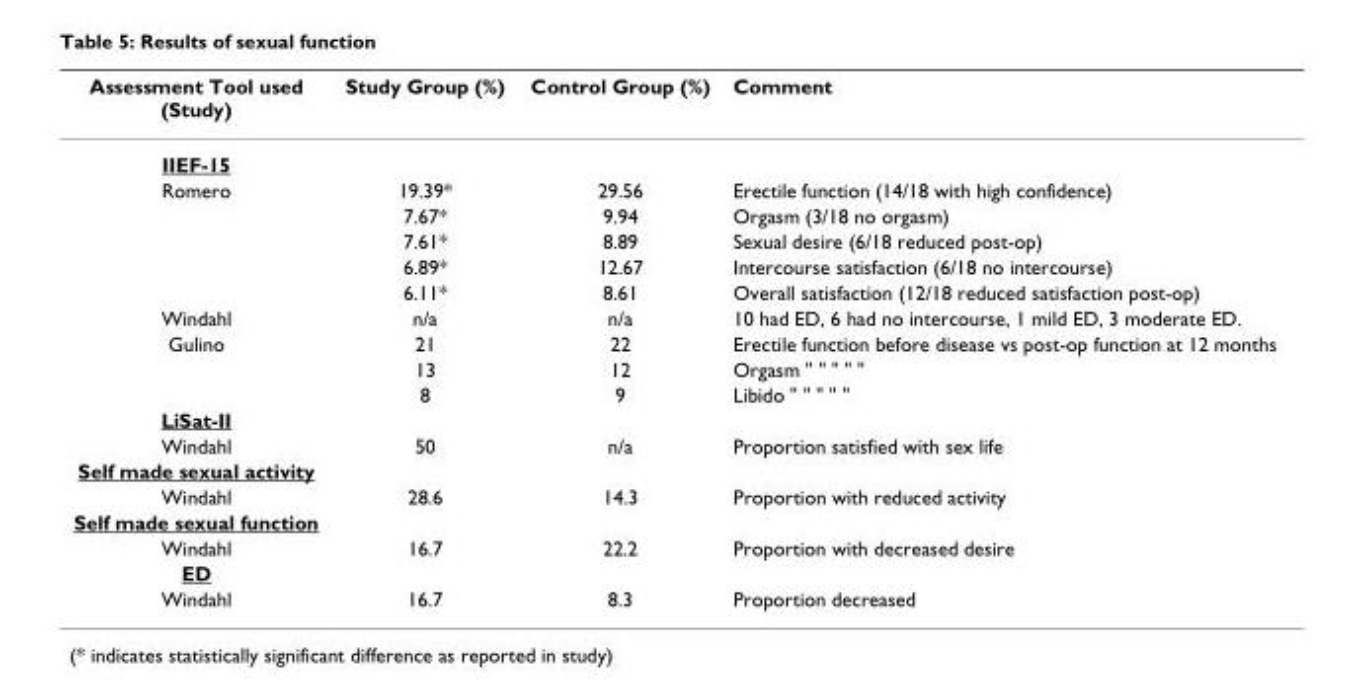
<table><thead><tr><td>Assessment Tool used (Study)</td><td>Study Group (%)</td><td>Control Group (%)</td><td>Comment</td></tr></thead><tbody><tr><td colspan="4">IIEF-15</td></tr><tr><td rowspan="5">Romero</td><td>19.39*</td><td>29.56</td><td>Erectile function (14/18 with high confidence)</td></tr><tr><td>7.67*</td><td>9.94</td><td>Orgasm (3/18 no orgasm)</td></tr><tr><td>7.61*</td><td>8.89</td><td>Sexual desire (6/18 reduced post-op)</td></tr><tr><td>6.89*</td><td>12.67</td><td>Intercourse satisfaction (6/18 no intercourse)</td></tr><tr><td>6.11*</td><td>8.61</td><td>Overall satisfaction (12/18 reduced satisfaction post-op)</td></tr><tr><td>Windahl</td><td>n/a</td><td>n/a</td><td>10 had ED, 6 had no intercourse, 1 mild ED, 3 moderate ED.</td></tr><tr><td rowspan="3">Gulino</td><td>21</td><td>22</td><td>Erectile function before disease vs post-op function at 12 months</td></tr><tr><td>13</td><td>12</td><td>Orgasm &quot; &quot; &quot; &quot; &quot;</td></tr><tr><td>8</td><td>9</td><td>Libido &quot; &quot; &quot; &quot; &quot;</td></tr><tr><td colspan="4">LiSat-II</td></tr><tr><td>Windahl</td><td>50</td><td>n/a</td><td>Proportion satisfied with sex life</td></tr><tr><td colspan="4">Self made sexual activity</td></tr><tr><td>Windahl</td><td>28.6</td><td>14.3</td><td>Proportion with reduced activity</td></tr><tr><td colspan="4">Self made sexual function</td></tr><tr><td>Windahl</td><td>16.7</td><td>22.2</td><td>Proportion with decreased desire</td></tr><tr><td colspan="4">ED</td></tr><tr><td>Windahl</td><td>16.7</td><td>8.3</td><td>Proportion decreased</td></tr></tbody></table>